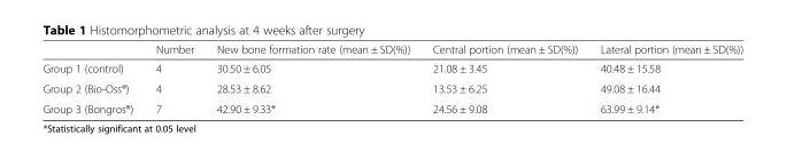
<table><thead><tr><td></td><td>Number</td><td>New bone formation rate (mean ± SD(%))</td><td>Central portion (mean ± SD(%))</td><td>Lateral portion (mean ± SD(%))</td></tr></thead><tbody><tr><td>Group 1 (control)</td><td>4</td><td>30.50 ± 6.05</td><td>21.08 ± 3.45</td><td>40.48 ± 15.58</td></tr><tr><td>Group 2 (Bio-Oss®)</td><td>4</td><td>28.53 ± 8.62</td><td>13.53 ± 6.25</td><td>49.08 ± 16.44</td></tr><tr><td>Group 3 (Bongros®)</td><td>7</td><td>42.90 ± 9.33*</td><td>24.56 ± 9.08</td><td>63.99 ± 9.14*</td></tr></tbody></table>